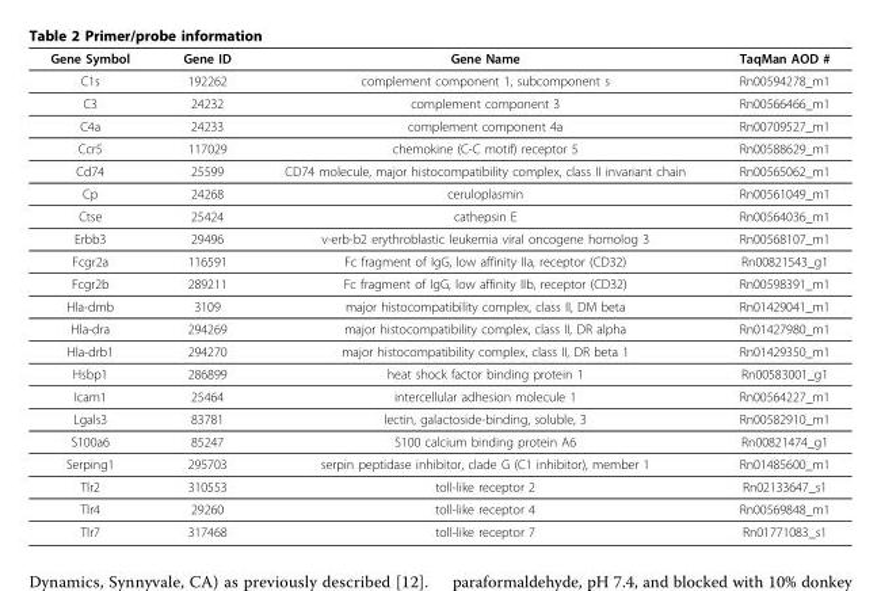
<table><thead><tr><td>Gene Symbol</td><td>Gene ID</td><td>Gene Name</td><td>TaqMan AOD #</td></tr></thead><tbody><tr><td>C1s</td><td>192262</td><td>complement component 1, subcomponent s</td><td>Rn00594278_m1</td></tr><tr><td>C3</td><td>24232</td><td>complement component 3</td><td>Rn00566466_m1</td></tr><tr><td>C4a</td><td>24233</td><td>complement component 4a</td><td>Rn00709527_m1</td></tr><tr><td>Ccr5</td><td>117029</td><td>chemokine (C-C motif) receptor 5</td><td>Rn00588629_m1</td></tr><tr><td>Cd74</td><td>25599</td><td>CD74 molecule, major histocompatibility complex, class II invariant chain</td><td>Rn00565062_m1</td></tr><tr><td>Cp</td><td>24268</td><td>ceruloplasmin</td><td>Rn00561049_m1</td></tr><tr><td>Ctse</td><td>25424</td><td>cathepsin E</td><td>Rn00564036_m1</td></tr><tr><td>Erbb3</td><td>29496</td><td>v-erb-b2 erythroblastic leukemia viral oncogene homolog 3</td><td>Rn00568107_m1</td></tr><tr><td>Fcgr2a</td><td>116591</td><td>Fc fragment of IgG, low affinity IIa, receptor (CD32)</td><td>Rn00821543_g1</td></tr><tr><td>Fcgr2b</td><td>289211</td><td>Fc fragment of IgG, low affinity IIb, receptor (CD32)</td><td>Rn00598391_m1</td></tr><tr><td>Hla-dmb</td><td>3109</td><td>major histocompatibility complex, class II, DM beta</td><td>Rn01429041_m1</td></tr><tr><td>Hla-dra</td><td>294269</td><td>major histocompatibility complex, class II, DR alpha</td><td>Rn01427980_m1</td></tr><tr><td>Hla-drb1</td><td>294270</td><td>major histocompatibility complex, class II, DR beta 1</td><td>Rn01429350_m1</td></tr><tr><td>Hsbp1</td><td>286899</td><td>heat shock factor binding protein 1</td><td>Rn00583001_g1</td></tr><tr><td>Icam1</td><td>25464</td><td>intercellular adhesion molecule 1</td><td>Rn00564227_m1</td></tr><tr><td>Lgals3</td><td>83781</td><td>lectin, galactoside-binding, soluble, 3</td><td>Rn00582910_m1</td></tr><tr><td>S100a6</td><td>85247</td><td>S100 calcium binding protein A6</td><td>Rn00821474_g1</td></tr><tr><td>Serping1</td><td>295703</td><td>serpin peptidase inhibitor, clade G (C1 inhibitor), member 1</td><td>Rn01485600_m1</td></tr><tr><td>Tlr2</td><td>310553</td><td>toll-like receptor 2</td><td>Rn02133647_s1</td></tr><tr><td>Tlr4</td><td>29260</td><td>toll-like receptor 4</td><td>Rn00569848_m1</td></tr><tr><td>Tlr7</td><td>317468</td><td>toll-like receptor 7</td><td>Rn01771083_s1</td></tr></tbody></table>